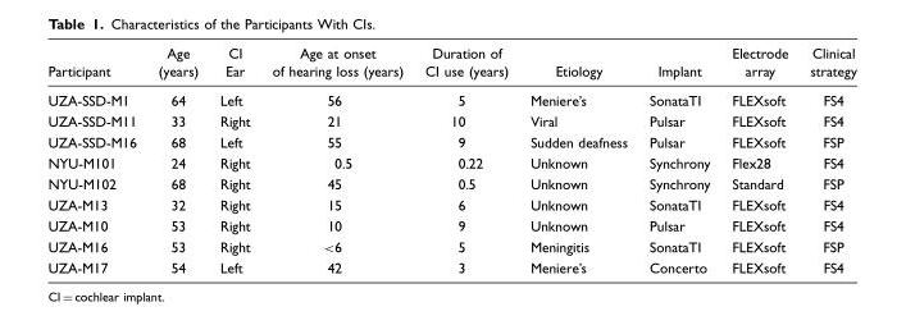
<table><thead><tr><td>Participant</td><td>Age (years)</td><td>CI Ear</td><td>Age at onset of hearing loss (years)</td><td>Duration of CI use (years)</td><td>Etiology</td><td>Implant</td><td>Electrode array</td><td>Clinical strategy</td></tr></thead><tbody><tr><td>UZA-SSD-M1</td><td>64</td><td>Left</td><td>56</td><td>5</td><td>Meniere’s</td><td>SonataTI</td><td>FLEXsoft</td><td>FS4</td></tr><tr><td>UZA-SSD-M11</td><td>33</td><td>Right</td><td>21</td><td>10</td><td>Viral</td><td>Pulsar</td><td>FLEXsoft</td><td>FS4</td></tr><tr><td>UZA-SSD-M16</td><td>68</td><td>Left</td><td>55</td><td>9</td><td>Sudden deafness</td><td>Pulsar</td><td>FLEXsoft</td><td>FSP</td></tr><tr><td>NYU-M101</td><td>24</td><td>Right</td><td>0.5</td><td>0.22</td><td>Unknown</td><td>Synchrony</td><td>Flex28</td><td>FS4</td></tr><tr><td>NYU-M102</td><td>68</td><td>Right</td><td>45</td><td>0.5</td><td>Unknown</td><td>Synchrony</td><td>Standard</td><td>FSP</td></tr><tr><td>UZA-M13</td><td>32</td><td>Right</td><td>15</td><td>6</td><td>Unknown</td><td>SonataTI</td><td>FLEXsoft</td><td>FS4</td></tr><tr><td>UZA-M10</td><td>53</td><td>Right</td><td>10</td><td>9</td><td>Unknown</td><td>Pulsar</td><td>FLEXsoft</td><td>FS4</td></tr><tr><td>UZA-M16</td><td>53</td><td>Right</td><td>&lt;6</td><td>5</td><td>Meningitis</td><td>SonataTI</td><td>FLEXsoft</td><td>FSP</td></tr><tr><td>UZA-M17</td><td>54</td><td>Left</td><td>42</td><td>3</td><td>Meniere’s</td><td>Concerto</td><td>FLEXsoft</td><td>FS4</td></tr></tbody></table>